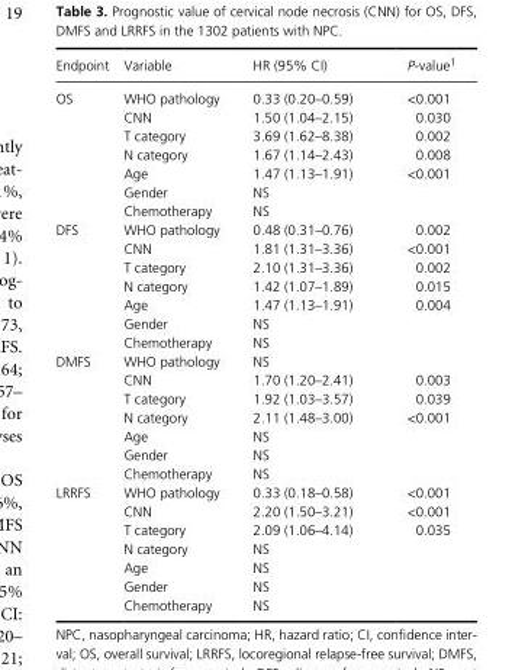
<table><thead><tr><td>Endpoint</td><td>Variable</td><td>HR (95% CI)</td><td>P-value1</td></tr></thead><tbody><tr><td rowspan="7">OS</td><td>WHO pathology</td><td>0.33 (0.20–0.59)</td><td>&lt;0.001</td></tr><tr><td>CNN</td><td>1.50 (1.04–2.15)</td><td>0.030</td></tr><tr><td>T category</td><td>3.69 (1.62–8.38)</td><td>0.002</td></tr><tr><td>N category</td><td>1.67 (1.14–2.43)</td><td>0.008</td></tr><tr><td>Age</td><td>1.47 (1.13–1.91)</td><td>&lt;0.001</td></tr><tr><td>Gender</td><td>NS</td><td></td></tr><tr><td>Chemotherapy</td><td>NS</td><td></td></tr><tr><td rowspan="7">DFS</td><td>WHO pathology</td><td>0.48 (0.31–0.76)</td><td>0.002</td></tr><tr><td>CNN</td><td>1.81 (1.31–3.36)</td><td>&lt;0.001</td></tr><tr><td>T category</td><td>2.10 (1.31–3.36)</td><td>0.002</td></tr><tr><td>N category</td><td>1.42 (1.07–1.89)</td><td>0.015</td></tr><tr><td>Age</td><td>1.47 (1.13–1.91)</td><td>0.004</td></tr><tr><td>Gender</td><td>NS</td><td></td></tr><tr><td>Chemotherapy</td><td>NS</td><td></td></tr><tr><td rowspan="7">DMFS</td><td>WHO pathology</td><td>NS</td><td></td></tr><tr><td>CNN</td><td>1.70 (1.20–2.41)</td><td>0.003</td></tr><tr><td>T category</td><td>1.92 (1.03–3.57)</td><td>0.039</td></tr><tr><td>N category</td><td>2.11 (1.48–3.00)</td><td>&lt;0.001</td></tr><tr><td>Age</td><td>NS</td><td></td></tr><tr><td>Gender</td><td>NS</td><td></td></tr><tr><td>Chemotherapy</td><td>NS</td><td></td></tr><tr><td rowspan="7">LRRFS</td><td>WHO pathology</td><td>0.33 (0.18–0.58)</td><td>&lt;0.001</td></tr><tr><td>CNN</td><td>2.20 (1.50–3.21)</td><td>&lt;0.001</td></tr><tr><td>T category</td><td>2.09 (1.06–4.14)</td><td>0.035</td></tr><tr><td>N category</td><td>NS</td><td></td></tr><tr><td>Age</td><td>NS</td><td></td></tr><tr><td>Gender</td><td>NS</td><td></td></tr><tr><td>Chemotherapy</td><td>NS</td><td></td></tr></tbody></table>